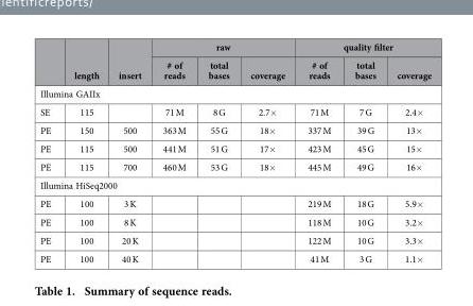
<table><thead><tr><td rowspan="2"></td><td rowspan="2">length</td><td rowspan="2">insert</td><td colspan="3">raw</td><td colspan="3">quality filter</td></tr><tr><td># of reads</td><td>total bases</td><td>coverage</td><td># of reads</td><td>total bases</td><td>coverage</td></tr></thead><tbody><tr><td colspan="9">Illumina GAIIx</td></tr><tr><td>SE</td><td>115</td><td></td><td>71 M</td><td>8 G</td><td>2.7×</td><td>71 M</td><td>7 G</td><td>2.4×</td></tr><tr><td>PE</td><td>150</td><td>500</td><td>363 M</td><td>55 G</td><td>18×</td><td>337 M</td><td>39 G</td><td>13×</td></tr><tr><td>PE</td><td>115</td><td>500</td><td>441 M</td><td>51 G</td><td>17×</td><td>423 M</td><td>45 G</td><td>15×</td></tr><tr><td>PE</td><td>115</td><td>700</td><td>460 M</td><td>53 G</td><td>18×</td><td>445 M</td><td>49 G</td><td>16×</td></tr><tr><td colspan="9">Illumina HiSeq2000</td></tr><tr><td>PE</td><td>100</td><td>3 K</td><td></td><td></td><td></td><td>219 M</td><td>18 G</td><td>5.9×</td></tr><tr><td>PE</td><td>100</td><td>8 K</td><td></td><td></td><td></td><td>118 M</td><td>10 G</td><td>3.2×</td></tr><tr><td>PE</td><td>100</td><td>20 K</td><td></td><td></td><td></td><td>122 M</td><td>10 G</td><td>3.3×</td></tr><tr><td>PE</td><td>100</td><td>40 K</td><td></td><td></td><td></td><td>41 M</td><td>3 G</td><td>1.1×</td></tr></tbody></table>